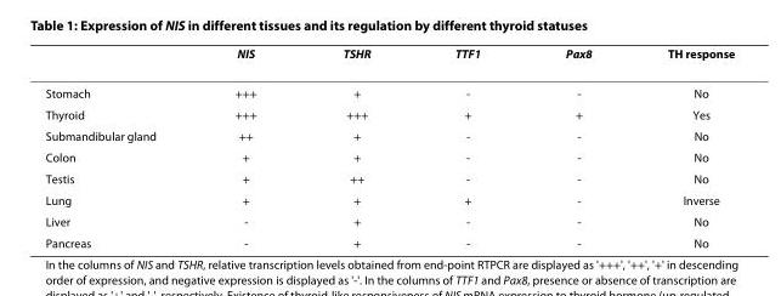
<table><thead><tr><td></td><td>NIS</td><td>TSHR</td><td>TTF1</td><td>Pax8</td><td>TH response</td></tr></thead><tbody><tr><td>Stomach</td><td>+++</td><td>+</td><td>-</td><td>-</td><td>No</td></tr><tr><td>Thyroid</td><td>+++</td><td>+++</td><td>+</td><td>+</td><td>Yes</td></tr><tr><td>Submandibular gland</td><td>++</td><td>+</td><td>-</td><td>-</td><td>No</td></tr><tr><td>Colon</td><td>+</td><td>+</td><td>-</td><td>-</td><td>No</td></tr><tr><td>Testis</td><td>+</td><td>++</td><td>-</td><td>-</td><td>No</td></tr><tr><td>Lung</td><td>+</td><td>+</td><td>+</td><td>-</td><td>Inverse</td></tr><tr><td>Liver</td><td>-</td><td>+</td><td>-</td><td>-</td><td>No</td></tr><tr><td>Pancreas</td><td>-</td><td>+</td><td>-</td><td>-</td><td>No</td></tr></tbody></table>